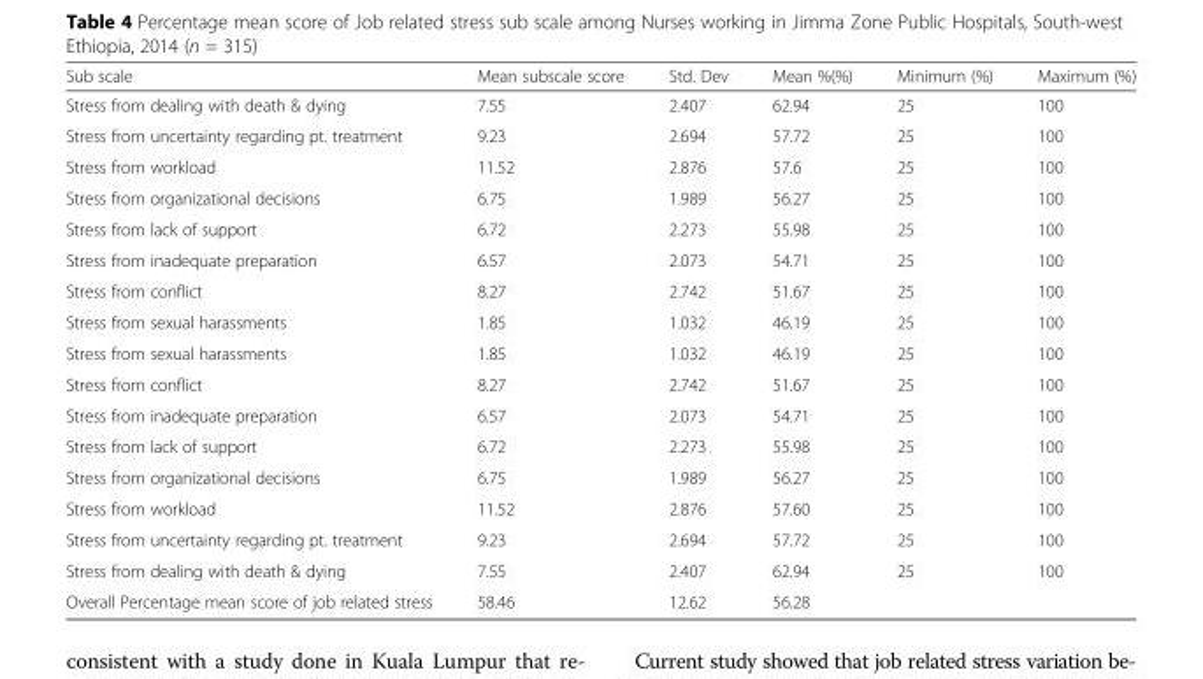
<table><thead><tr><td>Sub scale</td><td>Mean subscale score</td><td>Std. Dev</td><td>Mean %(%)</td><td>Minimum (%)</td><td>Maximum (%)</td></tr></thead><tbody><tr><td>Stress from dealing with death &amp; dying</td><td>7.55</td><td>2.407</td><td>62.94</td><td>25</td><td>100</td></tr><tr><td>Stress from uncertainty regarding pt. treatment</td><td>9.23</td><td>2.694</td><td>57.72</td><td>25</td><td>100</td></tr><tr><td>Stress from workload</td><td>11.52</td><td>2.876</td><td>57.6</td><td>25</td><td>100</td></tr><tr><td>Stress from organizational decisions</td><td>6.75</td><td>1.989</td><td>56.27</td><td>25</td><td>100</td></tr><tr><td>Stress from lack of support</td><td>6.72</td><td>2.273</td><td>55.98</td><td>25</td><td>100</td></tr><tr><td>Stress from inadequate preparation</td><td>6.57</td><td>2.073</td><td>54.71</td><td>25</td><td>100</td></tr><tr><td>Stress from conflict</td><td>8.27</td><td>2.742</td><td>51.67</td><td>25</td><td>100</td></tr><tr><td>Stress from sexual harassments</td><td>1.85</td><td>1.032</td><td>46.19</td><td>25</td><td>100</td></tr><tr><td>Stress from sexual harassments</td><td>1.85</td><td>1.032</td><td>46.19</td><td>25</td><td>100</td></tr><tr><td>Stress from conflict</td><td>8.27</td><td>2.742</td><td>51.67</td><td>25</td><td>100</td></tr><tr><td>Stress from inadequate preparation</td><td>6.57</td><td>2.073</td><td>54.71</td><td>25</td><td>100</td></tr><tr><td>Stress from lack of support</td><td>6.72</td><td>2.273</td><td>55.98</td><td>25</td><td>100</td></tr><tr><td>Stress from organizational decisions</td><td>6.75</td><td>1.989</td><td>56.27</td><td>25</td><td>100</td></tr><tr><td>Stress from workload</td><td>11.52</td><td>2.876</td><td>57.60</td><td>25</td><td>100</td></tr><tr><td>Stress from uncertainty regarding pt. treatment</td><td>9.23</td><td>2.694</td><td>57.72</td><td>25</td><td>100</td></tr><tr><td>Stress from dealing with death &amp; dying</td><td>7.55</td><td>2.407</td><td>62.94</td><td>25</td><td>100</td></tr><tr><td>Overall Percentage mean score of job related stress</td><td>58.46</td><td>12.62</td><td>56.28</td><td></td><td></td></tr></tbody></table>